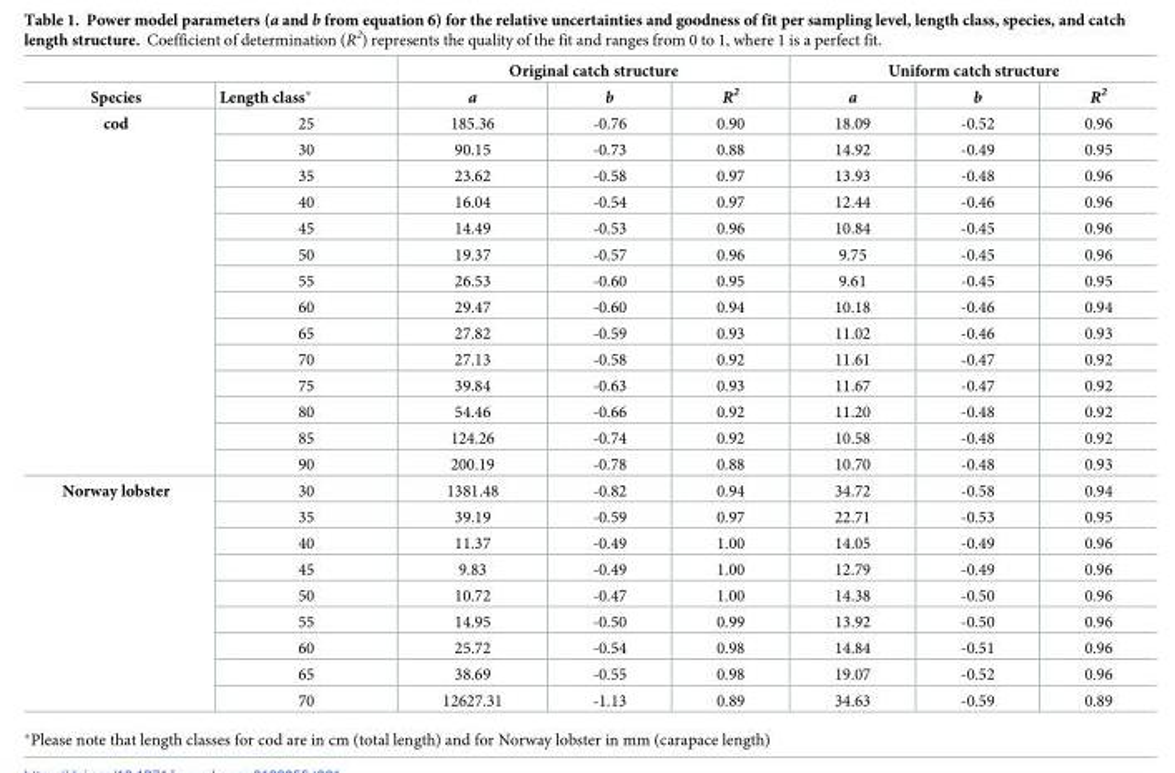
<table><thead><tr><td rowspan="2">Species</td><td rowspan="2">Length class*</td><td colspan="3">Original catch structure</td><td colspan="3">Uniform catch structure</td></tr><tr><td>a</td><td>b</td><td>R<sup>2</sup></td><td>a</td><td>b</td><td>R<sup>2</sup></td></tr></thead><tbody><tr><td rowspan="14">cod</td><td>25</td><td>185.36</td><td>-0.76</td><td>0.90</td><td>18.09</td><td>-0.52</td><td>0.96</td></tr><tr><td>30</td><td>90.15</td><td>-0.73</td><td>0.88</td><td>14.92</td><td>-0.49</td><td>0.95</td></tr><tr><td>35</td><td>23.62</td><td>-0.58</td><td>0.97</td><td>13.93</td><td>-0.48</td><td>0.96</td></tr><tr><td>40</td><td>16.04</td><td>-0.54</td><td>0.97</td><td>12.44</td><td>-0.46</td><td>0.96</td></tr><tr><td>45</td><td>14.49</td><td>-0.53</td><td>0.96</td><td>10.84</td><td>-0.45</td><td>0.96</td></tr><tr><td>50</td><td>19.37</td><td>-0.57</td><td>0.96</td><td>9.75</td><td>-0.45</td><td>0.96</td></tr><tr><td>55</td><td>26.53</td><td>-0.60</td><td>0.95</td><td>9.61</td><td>-0.45</td><td>0.95</td></tr><tr><td>60</td><td>29.47</td><td>-0.60</td><td>0.94</td><td>10.18</td><td>-0.46</td><td>0.94</td></tr><tr><td>65</td><td>27.82</td><td>-0.59</td><td>0.93</td><td>11.02</td><td>-0.46</td><td>0.93</td></tr><tr><td>70</td><td>27.13</td><td>-0.58</td><td>0.92</td><td>11.61</td><td>-0.47</td><td>0.92</td></tr><tr><td>75</td><td>39.84</td><td>-0.63</td><td>0.93</td><td>11.67</td><td>-0.47</td><td>0.92</td></tr><tr><td>80</td><td>54.46</td><td>-0.66</td><td>0.92</td><td>11.20</td><td>-0.48</td><td>0.92</td></tr><tr><td>85</td><td>124.26</td><td>-0.74</td><td>0.92</td><td>10.58</td><td>-0.48</td><td>0.92</td></tr><tr><td>90</td><td>200.19</td><td>-0.78</td><td>0.88</td><td>10.70</td><td>-0.48</td><td>0.93</td></tr><tr><td rowspan="9">Norway lobster</td><td>30</td><td>1381.48</td><td>-0.82</td><td>0.94</td><td>34.72</td><td>-0.58</td><td>0.94</td></tr><tr><td>35</td><td>39.19</td><td>-0.59</td><td>0.97</td><td>22.71</td><td>-0.53</td><td>0.95</td></tr><tr><td>40</td><td>11.37</td><td>-0.49</td><td>1.00</td><td>14.05</td><td>-0.49</td><td>0.96</td></tr><tr><td>45</td><td>9.83</td><td>-0.49</td><td>1.00</td><td>12.79</td><td>-0.49</td><td>0.96</td></tr><tr><td>50</td><td>10.72</td><td>-0.47</td><td>1.00</td><td>14.38</td><td>-0.50</td><td>0.96</td></tr><tr><td>55</td><td>14.95</td><td>-0.50</td><td>0.99</td><td>13.92</td><td>-0.50</td><td>0.96</td></tr><tr><td>60</td><td>25.72</td><td>-0.54</td><td>0.98</td><td>14.84</td><td>-0.51</td><td>0.96</td></tr><tr><td>65</td><td>38.69</td><td>-0.55</td><td>0.98</td><td>19.07</td><td>-0.52</td><td>0.96</td></tr><tr><td>70</td><td>12627.31</td><td>-1.13</td><td>0.89</td><td>34.63</td><td>-0.59</td><td>0.89</td></tr></tbody></table>